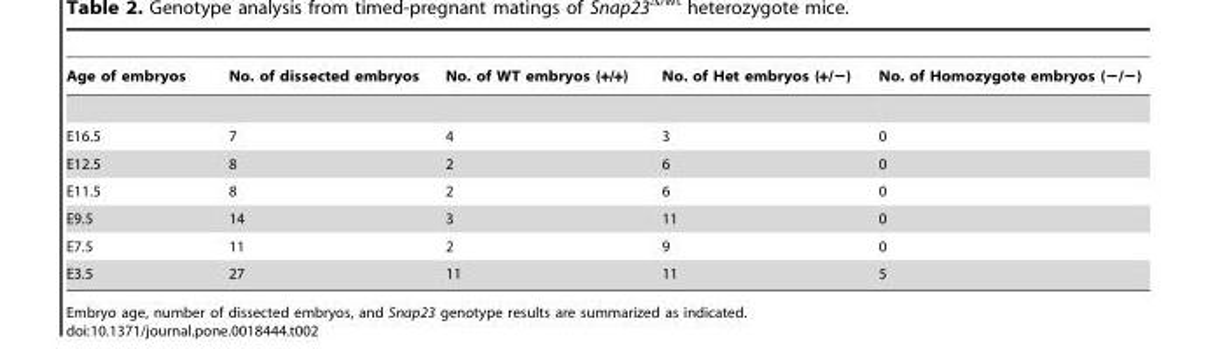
<table><thead><tr><td>Age of embryos</td><td>No. of dissected embryos</td><td>No. of WT embryos (+/+)</td><td>No. of Het embryos (+/−)</td><td>No. of Homozygote embryos (−/−)</td></tr></thead><tbody><tr><td>E16.5</td><td>7</td><td>4</td><td>3</td><td>0</td></tr><tr><td>E12.5</td><td>8</td><td>2</td><td>6</td><td>0</td></tr><tr><td>E11.5</td><td>8</td><td>2</td><td>6</td><td>0</td></tr><tr><td>E9.5</td><td>14</td><td>3</td><td>11</td><td>0</td></tr><tr><td>E7.5</td><td>11</td><td>2</td><td>9</td><td>0</td></tr><tr><td>E3.5</td><td>27</td><td>11</td><td>11</td><td>5</td></tr></tbody></table>